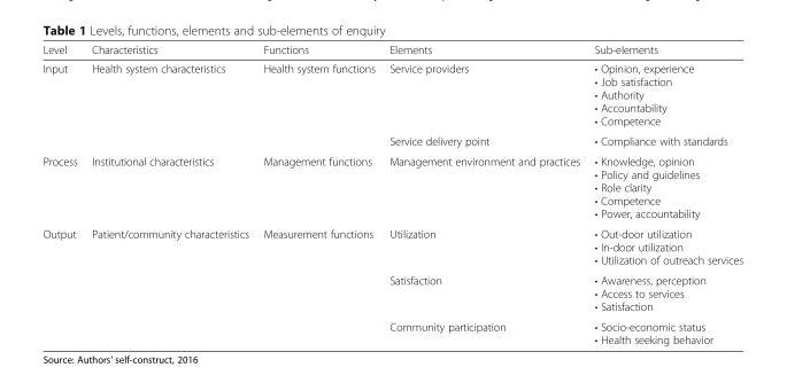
<table><thead><tr><td>Level</td><td>Characteristics</td><td>Functions</td><td>Elements</td><td>Sub-elements</td></tr></thead><tbody><tr><td rowspan="2">Input</td><td rowspan="2">Health system characteristics</td><td rowspan="2">Health system functions</td><td>Service providers</td><td>• Opinion, experience • Job satisfaction • Authority • Accountability • Competence</td></tr><tr><td>Service delivery point</td><td>• Compliance with standards</td></tr><tr><td>Process</td><td>Institutional characteristics</td><td>Management functions</td><td>Management environment and practices</td><td>• Knowledge, opinion • Policy and guidelines • Role clarity • Competence • Power, accountability</td></tr><tr><td rowspan="3">Output</td><td rowspan="3">Patient/community characteristics</td><td rowspan="3">Measurement functions</td><td>Utilization</td><td>• Out-door utilization • In-door utilization • Utilization of outreach services</td></tr><tr><td>Satisfaction</td><td>• Awareness, perception • Access to services • Satisfaction</td></tr><tr><td>Community participation</td><td>• Socio-economic status • Health seeking behavior</td></tr></tbody></table>